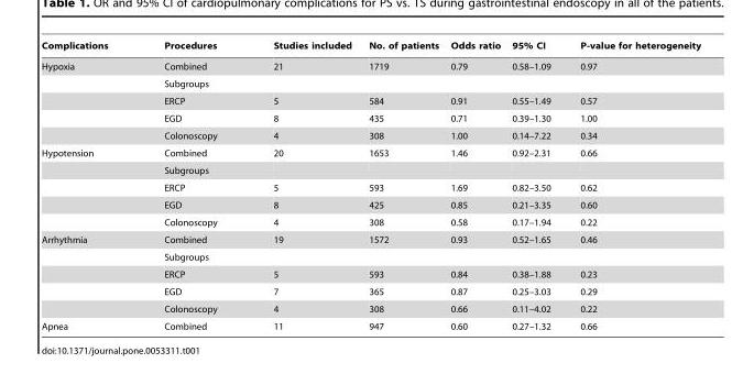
<table><thead><tr><td>Complications</td><td>Procedures</td><td>Studies included</td><td>No. of patients</td><td>Odds ratio</td><td>95% CI</td><td>P-value for heterogeneity</td></tr></thead><tbody><tr><td rowspan="5">Hypoxia</td><td>Combined</td><td>21</td><td>1719</td><td>0.79</td><td>0.58–1.09</td><td>0.97</td></tr><tr><td>Subgroups</td><td></td><td></td><td></td><td></td><td></td></tr><tr><td>ERCP</td><td>5</td><td>584</td><td>0.91</td><td>0.55–1.49</td><td>0.57</td></tr><tr><td>EGD</td><td>8</td><td>435</td><td>0.71</td><td>0.39–1.30</td><td>1.00</td></tr><tr><td>Colonoscopy</td><td>4</td><td>308</td><td>1.00</td><td>0.14–7.22</td><td>0.34</td></tr><tr><td rowspan="5">Hypotension</td><td>Combined</td><td>20</td><td>1653</td><td>1.46</td><td>0.92–2.31</td><td>0.66</td></tr><tr><td>Subgroups</td><td></td><td></td><td></td><td></td><td></td></tr><tr><td>ERCP</td><td>5</td><td>593</td><td>1.69</td><td>0.82–3.50</td><td>0.62</td></tr><tr><td>EGD</td><td>8</td><td>425</td><td>0.85</td><td>0.21–3.35</td><td>0.60</td></tr><tr><td>Colonoscopy</td><td>4</td><td>308</td><td>0.58</td><td>0.17–1.94</td><td>0.22</td></tr><tr><td rowspan="5">Arrhythmia</td><td>Combined</td><td>19</td><td>1572</td><td>0.93</td><td>0.52–1.65</td><td>0.46</td></tr><tr><td>Subgroups</td><td></td><td></td><td></td><td></td><td></td></tr><tr><td>ERCP</td><td>5</td><td>593</td><td>0.84</td><td>0.38–1.88</td><td>0.23</td></tr><tr><td>EGD</td><td>7</td><td>365</td><td>0.87</td><td>0.25–3.03</td><td>0.29</td></tr><tr><td>Colonoscopy</td><td>4</td><td>308</td><td>0.66</td><td>0.11–4.02</td><td>0.22</td></tr><tr><td>Apnea</td><td>Combined</td><td>11</td><td>947</td><td>0.60</td><td>0.27–1.32</td><td>0.66</td></tr></tbody></table>